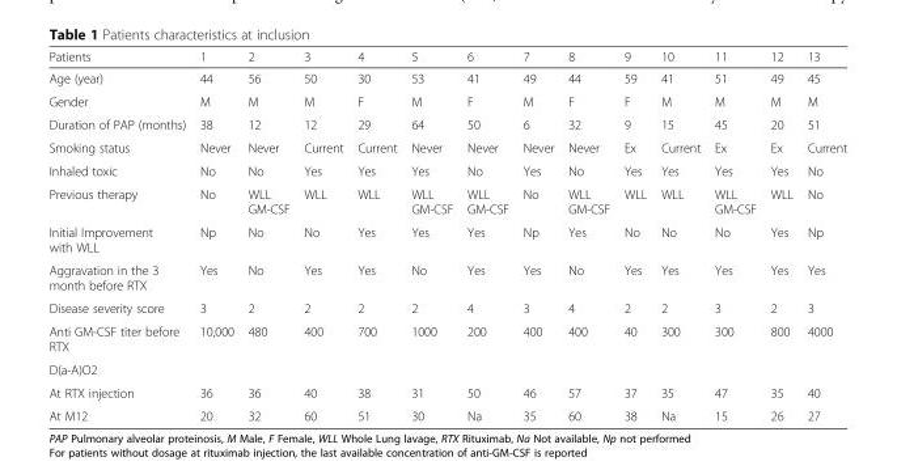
<table><thead><tr><td>Patients</td><td>1</td><td>2</td><td>3</td><td>4</td><td>5</td><td>6</td><td>7</td><td>8</td><td>9</td><td>10</td><td>11</td><td>12</td><td>13</td></tr></thead><tbody><tr><td>Age (year)</td><td>44</td><td>56</td><td>50</td><td>30</td><td>53</td><td>41</td><td>49</td><td>44</td><td>59</td><td>41</td><td>51</td><td>49</td><td>45</td></tr><tr><td>Gender</td><td>M</td><td>M</td><td>M</td><td>F</td><td>M</td><td>F</td><td>M</td><td>F</td><td>F</td><td>M</td><td>M</td><td>M</td><td>M</td></tr><tr><td>Duration of PAP (months)</td><td>38</td><td>12</td><td>12</td><td>29</td><td>64</td><td>50</td><td>6</td><td>32</td><td>9</td><td>15</td><td>45</td><td>20</td><td>51</td></tr><tr><td>Smoking status</td><td>Never</td><td>Never</td><td>Current</td><td>Current</td><td>Never</td><td>Never</td><td>Never</td><td>Never</td><td>Ex</td><td>Current</td><td>Ex</td><td>Ex</td><td>Current</td></tr><tr><td>Inhaled toxic</td><td>No</td><td>No</td><td>Yes</td><td>Yes</td><td>Yes</td><td>No</td><td>Yes</td><td>No</td><td>Yes</td><td>Yes</td><td>Yes</td><td>Yes</td><td>No</td></tr><tr><td>Previous therapy</td><td>No</td><td>WLL GM-CSF</td><td>WLL</td><td>WLL</td><td>WLL GM-CSF</td><td>WLL GM-CSF</td><td>No</td><td>WLL GM-CSF</td><td>WLL</td><td>WLL</td><td>WLL GM-CSF</td><td>WLL</td><td>No</td></tr><tr><td>Initial Improvement with WLL</td><td>Np</td><td>No</td><td>No</td><td>Yes</td><td>Yes</td><td>Yes</td><td>Np</td><td>Yes</td><td>No</td><td>No</td><td>No</td><td>Yes</td><td>Np</td></tr><tr><td>Aggravation in the 3 month before RTX</td><td>Yes</td><td>No</td><td>Yes</td><td>Yes</td><td>No</td><td>Yes</td><td>Yes</td><td>No</td><td>Yes</td><td>Yes</td><td>Yes</td><td>Yes</td><td>Yes</td></tr><tr><td>Disease severity score</td><td>3</td><td>2</td><td>2</td><td>2</td><td>2</td><td>4</td><td>3</td><td>4</td><td>2</td><td>2</td><td>3</td><td>2</td><td>3</td></tr><tr><td>Anti GM-CSF titer before RTX</td><td>10,000</td><td>480</td><td>400</td><td>700</td><td>1000</td><td>200</td><td>400</td><td>400</td><td>40</td><td>300</td><td>300</td><td>800</td><td>4000</td></tr><tr><td colspan="14">D(a-A)O2</td></tr><tr><td>At RTX injection</td><td>36</td><td>36</td><td>40</td><td>38</td><td>31</td><td>50</td><td>46</td><td>57</td><td>37</td><td>35</td><td>47</td><td>35</td><td>40</td></tr><tr><td>At M12</td><td>20</td><td>32</td><td>60</td><td>51</td><td>30</td><td>Na</td><td>35</td><td>60</td><td>38</td><td>Na</td><td>15</td><td>26</td><td>27</td></tr></tbody></table>